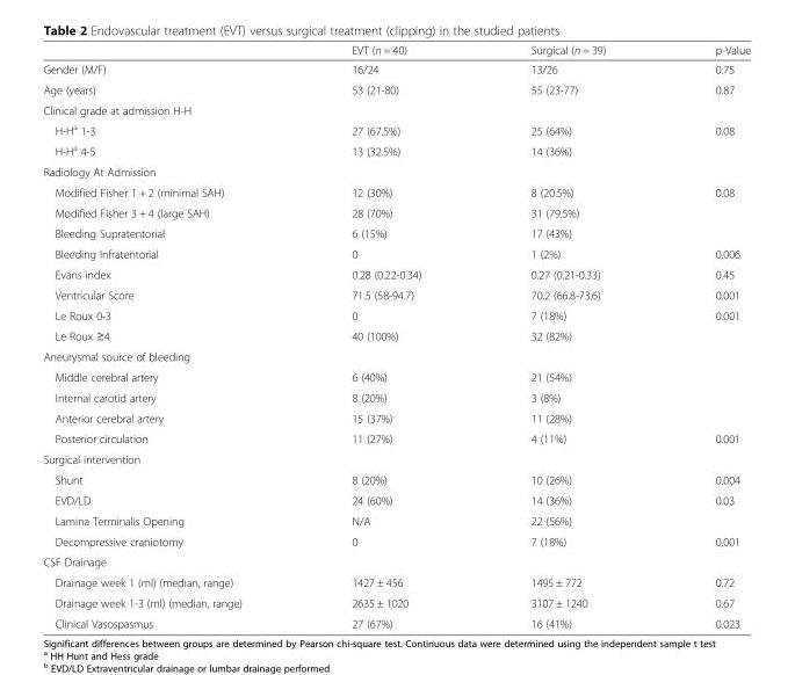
<table><thead><tr><td></td><td>EVT (n = 40)</td><td>Surgical (n = 39)</td><td>p-Value</td></tr></thead><tbody><tr><td>Gender (M/F)</td><td>16/24</td><td>13/26</td><td>0.75</td></tr><tr><td>Age (years)</td><td>53 (21-80)</td><td>55 (23-77)</td><td>0.87</td></tr><tr><td colspan="4">Clinical grade at admission H-H</td></tr><tr><td>H-H<sup>a</sup> 1-3</td><td>27 (67.5%)</td><td>25 (64%)</td><td rowspan="2">0.08</td></tr><tr><td>H-H<sup>a</sup> 4-5</td><td>13 (32.5%)</td><td>14 (36%)</td></tr><tr><td colspan="4">Radiology At Admission</td></tr><tr><td>Modified Fisher 1 + 2 (minimal SAH)</td><td>12 (30%)</td><td>8 (20.5%)</td><td>0.08</td></tr><tr><td>Modified Fisher 3 + 4 (large SAH)</td><td>28 (70%)</td><td>31 (79.5%)</td><td></td></tr><tr><td>Bleeding Supratentorial</td><td>6 (15%)</td><td>17 (43%)</td><td></td></tr><tr><td>Bleeding Infratentorial</td><td>0</td><td>1 (2%)</td><td>0.006</td></tr><tr><td>Evans index</td><td>0.28 (0.22-0.34)</td><td>0.27 (0.21-0.33)</td><td>0.45</td></tr><tr><td>Ventricular Score</td><td>71.5 (58-94.7)</td><td>70.2 (66.8-73.6)</td><td>0.001</td></tr><tr><td>Le Roux 0-3</td><td>0</td><td>7 (18%)</td><td>0.001</td></tr><tr><td>Le Roux ≥4</td><td>40 (100%)</td><td>32 (82%)</td><td></td></tr><tr><td colspan="4">Aneurysmal source of bleeding</td></tr><tr><td>Middle cerebral artery</td><td>6 (40%)</td><td>21 (54%)</td><td></td></tr><tr><td>Internal carotid artery</td><td>8 (20%)</td><td>3 (8%)</td><td></td></tr><tr><td>Anterior cerebral artery</td><td>15 (37%)</td><td>11 (28%)</td><td></td></tr><tr><td>Posterior circulation</td><td>11 (27%)</td><td>4 (11%)</td><td>0.001</td></tr><tr><td colspan="4">Surgical intervention</td></tr><tr><td>Shunt</td><td>8 (20%)</td><td>10 (26%)</td><td>0.004</td></tr><tr><td>EVD/LD</td><td>24 (60%)</td><td>14 (36%)</td><td>0.03</td></tr><tr><td>Lamina Terminalis Opening</td><td>N/A</td><td>22 (56%)</td><td></td></tr><tr><td>Decompressive craniotomy</td><td>0</td><td>7 (18%)</td><td>0.001</td></tr><tr><td colspan="4">CSF Drainage</td></tr><tr><td>Drainage week 1 (ml) (median, range)</td><td>1427 ± 456</td><td>1495 ± 772</td><td>0.72</td></tr><tr><td>Drainage week 1-3 (ml) (median, range)</td><td>2635 ± 1020</td><td>3107 ± 1240</td><td>0.67</td></tr><tr><td>Clinical Vasospasmus</td><td>27 (67%)</td><td>16 (41%)</td><td>0.023</td></tr></tbody></table>